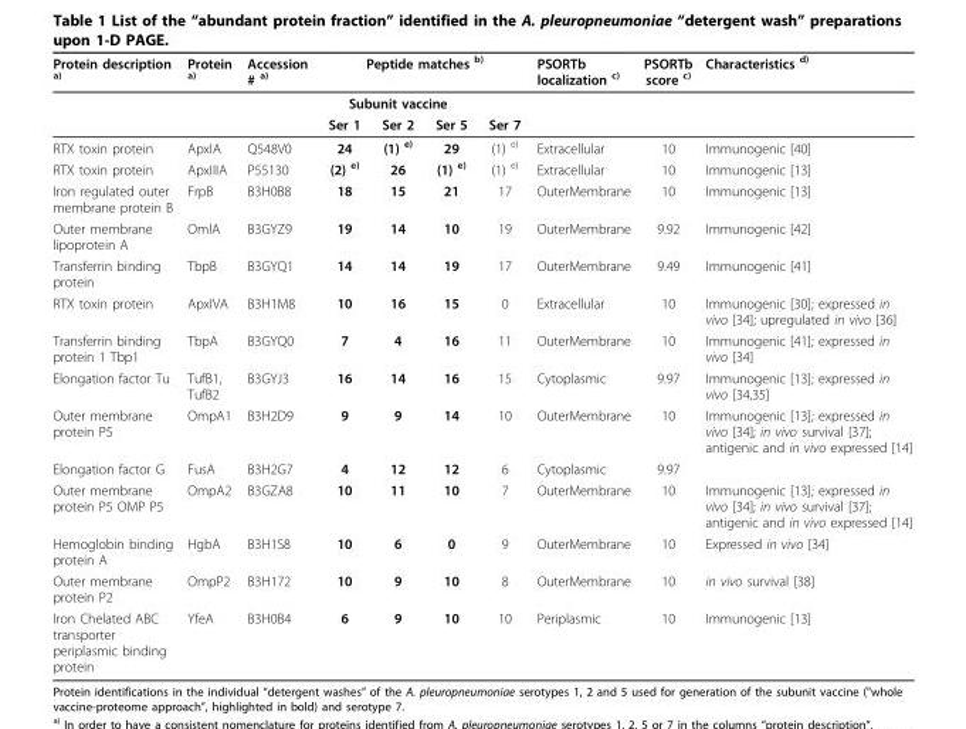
<table><thead><tr><td rowspan="3">Protein description <sup>a)</sup></td><td rowspan="3">Protein <sup>a)</sup></td><td rowspan="3">Accession # <sup>a)</sup></td><td colspan="4">Peptide matches <sup>b)</sup></td><td rowspan="3">PSORTb localization <sup>c)</sup></td><td rowspan="3">PSORTb score <sup>c)</sup></td><td rowspan="3">Characteristics <sup>d)</sup></td></tr><tr><td colspan="3">Subunit vaccine</td><td rowspan="2">Ser 7</td></tr><tr><td>Ser 1</td><td>Ser 2</td><td>Ser 5</td></tr></thead><tbody><tr><td>RTX toxin protein</td><td>ApxIA</td><td>Q548V0</td><td>24</td><td>(1) <sup>e)</sup></td><td>29</td><td>(1) <sup>e)</sup></td><td>Extracellular</td><td>10</td><td>Immunogenic [40]</td></tr><tr><td>RTX toxin protein</td><td>ApxIIIA</td><td>P55130</td><td>(2) <sup>e)</sup></td><td>26</td><td>(1) <sup>e)</sup></td><td>(1) <sup>e)</sup></td><td>Extracellular</td><td>10</td><td>Immunogenic [13]</td></tr><tr><td>Iron regulated outer membrane protein B</td><td>FrpB</td><td>B3H0B8</td><td>18</td><td>15</td><td>21</td><td>17</td><td>OuterMembrane</td><td>10</td><td>Immunogenic [13]</td></tr><tr><td>Outer membrane lipoprotein A</td><td>OmlA</td><td>B3GYZ9</td><td>19</td><td>14</td><td>10</td><td>19</td><td>OuterMembrane</td><td>9.92</td><td>Immunogenic [42]</td></tr><tr><td>Transferrin binding protein</td><td>TbpB</td><td>B3GYQ1</td><td>14</td><td>14</td><td>19</td><td>17</td><td>OuterMembrane</td><td>9.49</td><td>Immunogenic [41]</td></tr><tr><td>RTX toxin protein</td><td>ApxIVA</td><td>B3H1M8</td><td>10</td><td>16</td><td>15</td><td>0</td><td>Extracellular</td><td>10</td><td>Immunogenic [30]; expressed in vivo [34]; upregulated in vivo [36]</td></tr><tr><td>Transferrin binding protein 1 Tbp1</td><td>TbpA</td><td>B3GYQ0</td><td>7</td><td>4</td><td>16</td><td>11</td><td>OuterMembrane</td><td>10</td><td>Immunogenic [41]; expressed in vivo [34]</td></tr><tr><td>Elongation factor Tu</td><td>TufB1, TufB2</td><td>B3GYJ3</td><td>16</td><td>14</td><td>16</td><td>15</td><td>Cytoplasmic</td><td>9.97</td><td>Immunogenic [13]; expressed in vivo [34,35]</td></tr><tr><td>Outer membrane protein P5</td><td>OmpA1</td><td>B3H2D9</td><td>9</td><td>9</td><td>14</td><td>10</td><td>OuterMembrane</td><td>10</td><td>Immunogenic [13]; expressed in vivo [34]; in vivo survival [37]; antigenic and in vivo expressed [14]</td></tr><tr><td>Elongation factor G</td><td>FusA</td><td>B3H2G7</td><td>4</td><td>12</td><td>12</td><td>6</td><td>Cytoplasmic</td><td>9.97</td><td></td></tr><tr><td>Outer membrane protein P5 OMP P5</td><td>OmpA2</td><td>B3GZA8</td><td>10</td><td>11</td><td>10</td><td>7</td><td>OuterMembrane</td><td>10</td><td>Immunogenic [13]; expressed in vivo [34]; in vivo survival [37]; antigenic and in vivo expressed [14]</td></tr><tr><td>Hemoglobin binding protein A</td><td>HgbA</td><td>B3H1S8</td><td>10</td><td>6</td><td>0</td><td>9</td><td>OuterMembrane</td><td>10</td><td>Expressed in vivo [34]</td></tr><tr><td>Outer membrane protein P2</td><td>OmpP2</td><td>B3H172</td><td>10</td><td>9</td><td>10</td><td>8</td><td>OuterMembrane</td><td>10</td><td>in vivo survival [38]</td></tr><tr><td>Iron Chelated ABC transporter periplasmic binding protein</td><td>YfeA</td><td>B3H0B4</td><td>6</td><td>9</td><td>10</td><td>10</td><td>Periplasmic</td><td>10</td><td>Immunogenic [13]</td></tr></tbody></table>